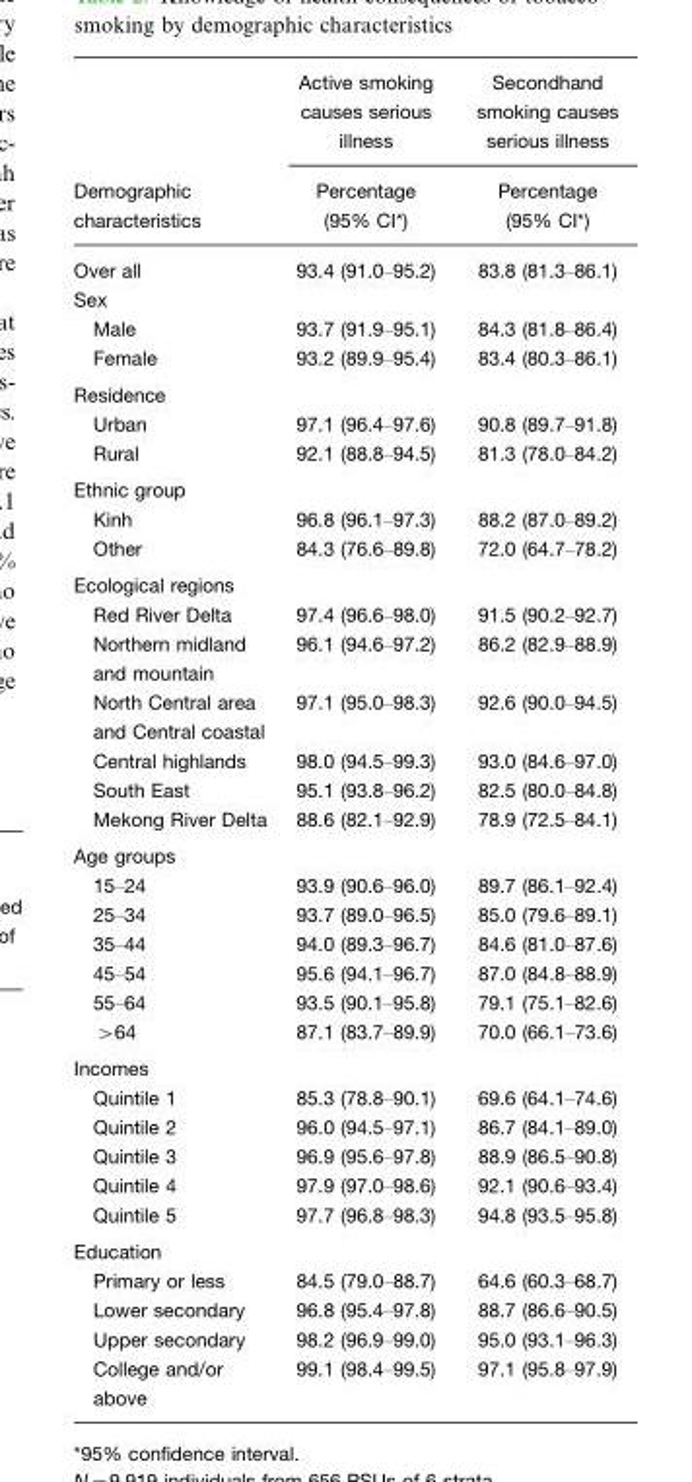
<table><thead><tr><td rowspan="2">Demographic characteristics</td><td rowspan="2">Active smoking causes serious illness Percentage (95% CI*)</td><td rowspan="2">Secondhand smoking causes serious illness Percentage (95% CI*)</td></tr><tr></tr></thead><tbody><tr><td>Over all</td><td>93.4 (91.0–95.2)</td><td>83.8 (81.3–86.1)</td></tr><tr><td colspan="3">Sex</td></tr><tr><td>Male</td><td>93.7 (91.9–95.1)</td><td>84.3 (81.8–86.4)</td></tr><tr><td>Female</td><td>93.2 (89.9–95.4)</td><td>83.4 (80.3–86.1)</td></tr><tr><td colspan="3">Residence</td></tr><tr><td>Urban</td><td>97.1 (96.4–97.6)</td><td>90.8 (89.7–91.8)</td></tr><tr><td>Rural</td><td>92.1 (88.8–94.5)</td><td>81.3 (78.0–84.2)</td></tr><tr><td colspan="3">Ethnic group</td></tr><tr><td>Kinh</td><td>96.8 (96.1–97.3)</td><td>88.2 (87.0–89.2)</td></tr><tr><td>Other</td><td>84.3 (76.6–89.8)</td><td>72.0 (64.7–78.2)</td></tr><tr><td colspan="3">Ecological regions</td></tr><tr><td>Red River Delta</td><td>97.4 (96.6–98.0)</td><td>91.5 (90.2–92.7)</td></tr><tr><td>Northern midland and mountain</td><td>96.1 (94.6–97.2)</td><td>86.2 (82.9–88.9)</td></tr><tr><td>North Central area and Central coastal</td><td>97.1 (95.0–98.3)</td><td>92.6 (90.0–94.5)</td></tr><tr><td>Central highlands</td><td>98.0 (94.5–99.3)</td><td>93.0 (84.6–97.0)</td></tr><tr><td>South East</td><td>95.1 (93.8–96.2)</td><td>82.5 (80.0–84.8)</td></tr><tr><td>Mekong River Delta</td><td>88.6 (82.1–92.9)</td><td>78.9 (72.5–84.1)</td></tr><tr><td colspan="3">Age groups</td></tr><tr><td>15–24</td><td>93.9 (90.6–96.0)</td><td>89.7 (86.1–92.4)</td></tr><tr><td>25–34</td><td>93.7 (89.0–96.5)</td><td>85.0 (79.6–89.1)</td></tr><tr><td>35–44</td><td>94.0 (89.3–96.7)</td><td>84.6 (81.0–87.6)</td></tr><tr><td>45–54</td><td>95.6 (94.1–96.7)</td><td>87.0 (84.8–88.9)</td></tr><tr><td>55–64</td><td>93.5 (90.1–95.8)</td><td>79.1 (75.1–82.6)</td></tr><tr><td>&gt;64</td><td>87.1 (83.7–89.9)</td><td>70.0 (66.1–73.6)</td></tr><tr><td colspan="3">Incomes</td></tr><tr><td>Quintile 1</td><td>85.3 (78.8–90.1)</td><td>69.6 (64.1–74.6)</td></tr><tr><td>Quintile 2</td><td>96.0 (94.5–97.1)</td><td>86.7 (84.1–89.0)</td></tr><tr><td>Quintile 3</td><td>96.9 (95.6–97.8)</td><td>88.9 (86.5–90.8)</td></tr><tr><td>Quintile 4</td><td>97.9 (97.0–98.6)</td><td>92.1 (90.6–93.4)</td></tr><tr><td>Quintile 5</td><td>97.7 (96.8–98.3)</td><td>94.8 (93.5–95.8)</td></tr><tr><td colspan="3">Education</td></tr><tr><td>Primary or less</td><td>84.5 (79.0–88.7)</td><td>64.6 (60.3–68.7)</td></tr><tr><td>Lower secondary</td><td>96.8 (95.4–97.8)</td><td>88.7 (86.6–90.5)</td></tr><tr><td>Upper secondary</td><td>98.2 (96.9–99.0)</td><td>95.0 (93.1–96.3)</td></tr><tr><td>College and/or above</td><td>99.1 (98.4–99.5)</td><td>97.1 (95.8–97.9)</td></tr></tbody></table>